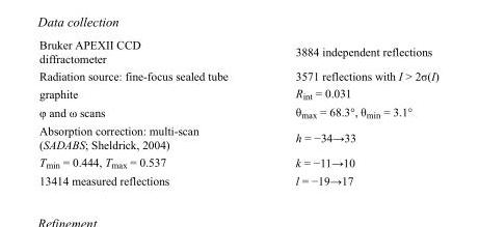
<table><tbody><tr><td>Bruker APEXII CCD diffractometer</td><td>3884 independent reflections</td></tr><tr><td>Radiation source: fine-focus sealed tube</td><td>3571 reflections with I &gt; 2σ(I)</td></tr><tr><td>graphite</td><td>R<sub>int</sub> = 0.031</td></tr><tr><td>φ and ω scans</td><td>θ<sub>max</sub> = 68.3°, θ<sub>min</sub> = 3.1°</td></tr><tr><td>Absorption correction: multi-scan (SADABS; Sheldrick, 2004)</td><td>h = −34→33</td></tr><tr><td>T<sub>min</sub> = 0.444, T<sub>max</sub> = 0.537</td><td>k = −11→10</td></tr><tr><td>13414 measured reflections</td><td>l = −19→17</td></tr></tbody></table>